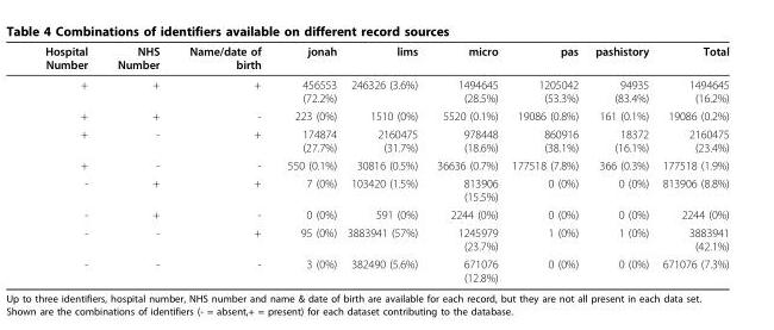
<table><thead><tr><td>Hospital Number</td><td>NHS Number</td><td>Name/date of birth</td><td>jonah</td><td>lims</td><td>micro</td><td>pas</td><td>pashistory</td><td>Total</td></tr></thead><tbody><tr><td>+</td><td>+</td><td>+</td><td>456553 (72.2%)</td><td>246326 (3.6%)</td><td>1494645 (28.5%)</td><td>1205042 (53.3%)</td><td>94935 (83.4%)</td><td>1494645 (16.2%)</td></tr><tr><td>+</td><td>+</td><td>-</td><td>223 (0%)</td><td>1510 (0%)</td><td>5520 (0.1%)</td><td>19086 (0.8%)</td><td>161 (0.1%)</td><td>19086 (0.2%)</td></tr><tr><td>+</td><td>-</td><td>+</td><td>174874 (27.7%)</td><td>2160475 (31.7%)</td><td>978448 (18.6%)</td><td>860916 (38.1%)</td><td>18372 (16.1%)</td><td>2160475 (23.4%)</td></tr><tr><td>+</td><td>-</td><td>-</td><td>550 (0.1%)</td><td>30816 (0.5%)</td><td>36636 (0.7%)</td><td>177518 (7.8%)</td><td>366 (0.3%)</td><td>177518 (1.9%)</td></tr><tr><td>-</td><td>+</td><td>+</td><td>7 (0%)</td><td>103420 (1.5%)</td><td>813906 (15.5%)</td><td>0 (0%)</td><td>0 (0%)</td><td>813906 (8.8%)</td></tr><tr><td>-</td><td>+</td><td>-</td><td>0 (0%)</td><td>591 (0%)</td><td>2244 (0%)</td><td>0 (0%)</td><td>0 (0%)</td><td>2244 (0%)</td></tr><tr><td>-</td><td>-</td><td>+</td><td>95 (0%)</td><td>3883941 (57%)</td><td>1245979 (23.7%)</td><td>1 (0%)</td><td>1 (0%)</td><td>3883941 (42.1%)</td></tr><tr><td>-</td><td>-</td><td>-</td><td>3 (0%)</td><td>382490 (5.6%)</td><td>671076 (12.8%)</td><td>0 (0%)</td><td>0 (0%)</td><td>671076 (7.3%)</td></tr></tbody></table>